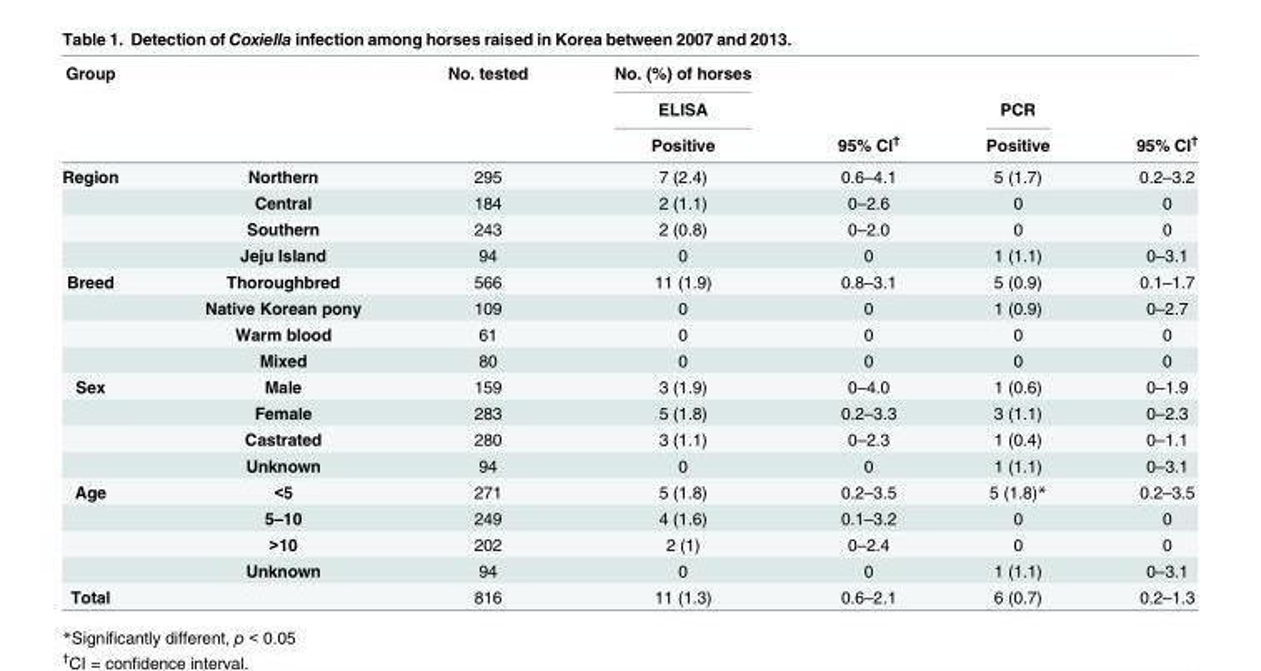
<table><thead><tr><td rowspan="3">Group</td><td rowspan="3"></td><td rowspan="3">No. tested</td><td rowspan="3">No. (%) of horses ELISA Positive</td><td rowspan="3">95% CI<sup>†</sup></td><td rowspan="3">PCR Positive</td><td rowspan="3">95% CI<sup>†</sup></td></tr><tr></tr><tr></tr></thead><tbody><tr><td rowspan="4">Region</td><td>Northern</td><td>295</td><td>7 (2.4)</td><td>0.6–4.1</td><td>5 (1.7)</td><td>0.2–3.2</td></tr><tr><td>Central</td><td>184</td><td>2 (1.1)</td><td>0–2.6</td><td>0</td><td>0</td></tr><tr><td>Southern</td><td>243</td><td>2 (0.8)</td><td>0–2.0</td><td>0</td><td>0</td></tr><tr><td>Jeju Island</td><td>94</td><td>0</td><td>0</td><td>1 (1.1)</td><td>0–3.1</td></tr><tr><td rowspan="4">Breed</td><td>Thoroughbred</td><td>566</td><td>11 (1.9)</td><td>0.8–3.1</td><td>5 (0.9)</td><td>0.1–1.7</td></tr><tr><td>Native Korean pony</td><td>109</td><td>0</td><td>0</td><td>1 (0.9)</td><td>0–2.7</td></tr><tr><td>Warm blood</td><td>61</td><td>0</td><td>0</td><td>0</td><td>0</td></tr><tr><td>Mixed</td><td>80</td><td>0</td><td>0</td><td>0</td><td>0</td></tr><tr><td rowspan="4">Sex</td><td>Male</td><td>159</td><td>3 (1.9)</td><td>0–4.0</td><td>1 (0.6)</td><td>0–1.9</td></tr><tr><td>Female</td><td>283</td><td>5 (1.8)</td><td>0.2–3.3</td><td>3 (1.1)</td><td>0–2.3</td></tr><tr><td>Castrated</td><td>280</td><td>3 (1.1)</td><td>0–2.3</td><td>1 (0.4)</td><td>0–1.1</td></tr><tr><td>Unknown</td><td>94</td><td>0</td><td>0</td><td>1 (1.1)</td><td>0–3.1</td></tr><tr><td rowspan="4">Age</td><td>&lt;5</td><td>271</td><td>5 (1.8)</td><td>0.2–3.5</td><td>5 (1.8)*</td><td>0.2–3.5</td></tr><tr><td>5–10</td><td>249</td><td>4 (1.6)</td><td>0.1–3.2</td><td>0</td><td>0</td></tr><tr><td>&gt;10</td><td>202</td><td>2 (1)</td><td>0–2.4</td><td>0</td><td>0</td></tr><tr><td>Unknown</td><td>94</td><td>0</td><td>0</td><td>1 (1.1)</td><td>0–3.1</td></tr><tr><td>Total</td><td></td><td>816</td><td>11 (1.3)</td><td>0.6–2.1</td><td>6 (0.7)</td><td>0.2–1.3</td></tr></tbody></table>